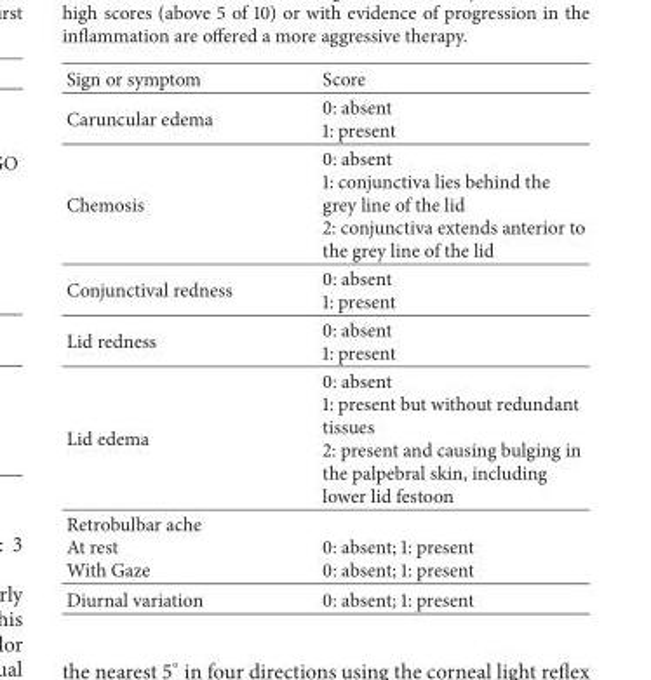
<table><thead><tr><td>Sign or symptom</td><td>Score</td></tr></thead><tbody><tr><td>Caruncular edema</td><td>0: absent 1: present</td></tr><tr><td>Chemosis</td><td>0: absent 1: conjunctiva lies behind the grey line of the lid 2: conjunctiva extends anterior to the grey line of the lid</td></tr><tr><td>Conjunctival redness</td><td>0: absent 1: present</td></tr><tr><td>Lid redness</td><td>0: absent 1: present</td></tr><tr><td>Lid edema</td><td>0: absent 1: present but without redundant tissues 2: present and causing bulging in the palpebral skin, including lower lid festoon</td></tr><tr><td>Retrobulbar ache At rest With Gaze</td><td>0: absent; 1: present 0: absent; 1: present</td></tr><tr><td>Diurnal variation</td><td>0: absent; 1: present</td></tr></tbody></table>